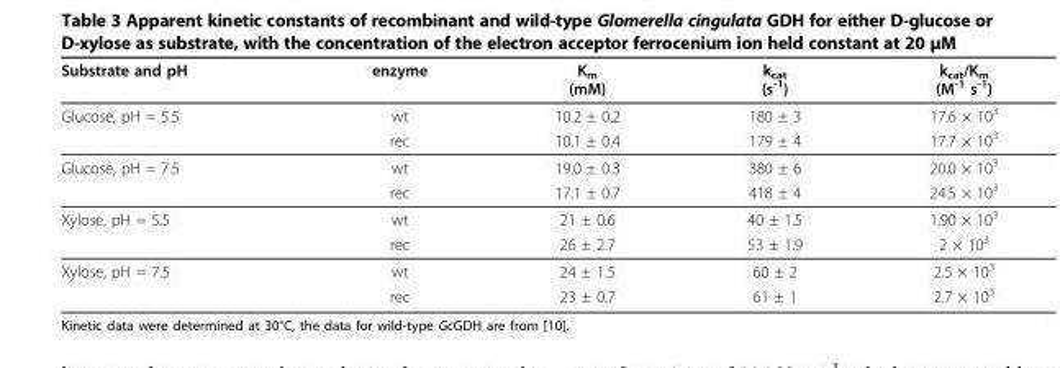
<table><thead><tr><td>Substrate and pH</td><td>enzyme</td><td>K<sub>m</sub> (mM)</td><td>k<sub>cat</sub> (s<sup>-1</sup>)</td><td>k<sub>cat</sub>/K<sub>m</sub> (M<sup>-1</sup> s<sup>-1</sup>)</td></tr></thead><tbody><tr><td rowspan="2">Glucose, pH = 5.5</td><td>wt</td><td>10.2 ± 0.2</td><td>180 ± 3</td><td>17.6 × 10<sup>3</sup></td></tr><tr><td>rec</td><td>10.1 ± 0.4</td><td>179 ± 4</td><td>17.7 × 10<sup>3</sup></td></tr><tr><td rowspan="2">Glucose, pH = 7.5</td><td>wt</td><td>19.0 ± 0.3</td><td>380 ± 6</td><td>20.0 × 10<sup>3</sup></td></tr><tr><td>rec</td><td>17.1 ± 0.7</td><td>418 ± 4</td><td>24.5 × 10<sup>3</sup></td></tr><tr><td rowspan="2">Xylose, pH = 5.5</td><td>wt</td><td>21 ± 0.6</td><td>40 ± 1.5</td><td>1.90 × 10<sup>3</sup></td></tr><tr><td>rec</td><td>26 ± 2.7</td><td>53 ± 1.9</td><td>2 × 10<sup>3</sup></td></tr><tr><td rowspan="2">Xylose, pH = 7.5</td><td>wt</td><td>24 ± 1.5</td><td>60 ± 2</td><td>2.5 × 10<sup>3</sup></td></tr><tr><td>rec</td><td>23 ± 0.7</td><td>61 ± 1</td><td>2.7 × 10<sup>3</sup></td></tr></tbody></table>